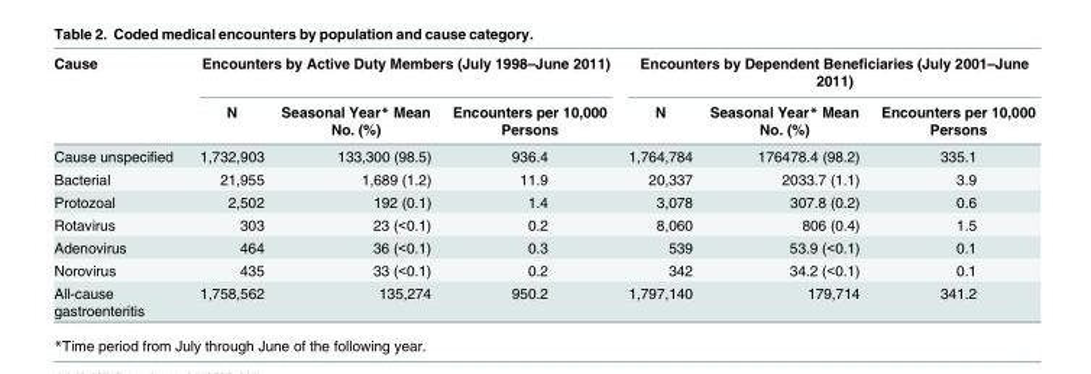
<table><thead><tr><td rowspan="2">Cause</td><td colspan="3">Encounters by Active Duty Members (July 1998–June 2011)</td><td colspan="3">Encounters by Dependent Beneficiaries (July 2001–June 2011)</td></tr><tr><td>N</td><td>Seasonal Year* Mean No. (%)</td><td>Encounters per 10,000 Persons</td><td>N</td><td>Seasonal Year* Mean No. (%)</td><td>Encounters per 10,000 Persons</td></tr></thead><tbody><tr><td>Cause unspecified</td><td>1,732,903</td><td>133,300 (98.5)</td><td>936.4</td><td>1,764,784</td><td>176478.4 (98.2)</td><td>335.1</td></tr><tr><td>Bacterial</td><td>21,955</td><td>1,689 (1.2)</td><td>11.9</td><td>20,337</td><td>2033.7 (1.1)</td><td>3.9</td></tr><tr><td>Protozoal</td><td>2,502</td><td>192 (0.1)</td><td>1.4</td><td>3,078</td><td>307.8 (0.2)</td><td>0.6</td></tr><tr><td>Rotavirus</td><td>303</td><td>23 (&lt;0.1)</td><td>0.2</td><td>8,060</td><td>806 (0.4)</td><td>1.5</td></tr><tr><td>Adenovirus</td><td>464</td><td>36 (&lt;0.1)</td><td>0.3</td><td>539</td><td>53.9 (&lt;0.1)</td><td>0.1</td></tr><tr><td>Norovirus</td><td>435</td><td>33 (&lt;0.1)</td><td>0.2</td><td>342</td><td>34.2 (&lt;0.1)</td><td>0.1</td></tr><tr><td>All-cause gastroenteritis</td><td>1,758,562</td><td>135,274</td><td>950.2</td><td>1,797,140</td><td>179,714</td><td>341.2</td></tr></tbody></table>